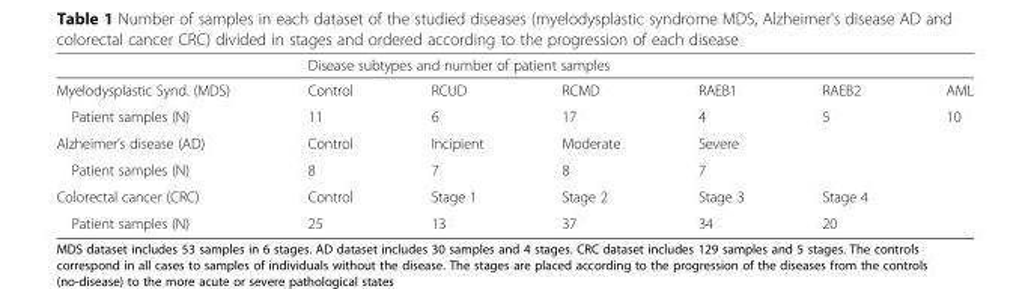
<table><thead><tr><td rowspan="2">Myelodysplastic Synd. (MDS)</td><td colspan="6">Disease subtypes and number of patient samples</td></tr><tr><td>Control</td><td>RCUD</td><td>RCMD</td><td>RAEB1</td><td>RAEB2</td><td>AML</td></tr></thead><tbody><tr><td>Patient samples (N)</td><td>11</td><td>6</td><td>17</td><td>4</td><td>5</td><td>10</td></tr><tr><td>Alzheimer’s disease (AD)</td><td>Control</td><td>Incipient</td><td>Moderate</td><td>Severe</td><td></td><td></td></tr><tr><td>Patient samples (N)</td><td>8</td><td>7</td><td>8</td><td>7</td><td></td><td></td></tr><tr><td>Colorectal cancer (CRC)</td><td>Control</td><td>Stage 1</td><td>Stage 2</td><td>Stage 3</td><td>Stage 4</td><td></td></tr><tr><td>Patient samples (N)</td><td>25</td><td>13</td><td>37</td><td>34</td><td>20</td><td></td></tr></tbody></table>